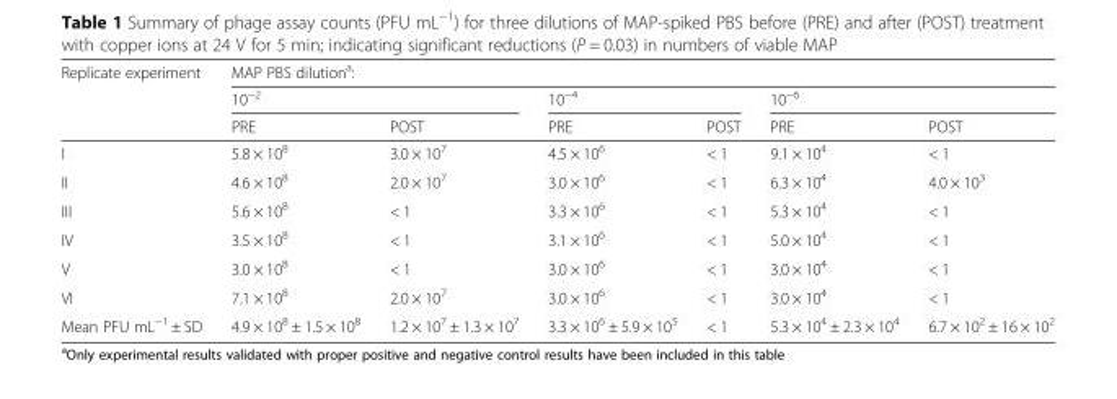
<table><thead><tr><td rowspan="3">Replicate experiment</td><td colspan="6">MAP PBS dilution<sup>a</sup>:</td></tr><tr><td colspan="2">10<sup>−2</sup></td><td colspan="2">10<sup>−4</sup></td><td colspan="2">10<sup>−6</sup></td></tr><tr><td>PRE</td><td>POST</td><td>PRE</td><td>POST</td><td>PRE</td><td>POST</td></tr></thead><tbody><tr><td>I</td><td>5.8 × 10<sup>8</sup></td><td>3.0 × 10<sup>7</sup></td><td>4.5 × 10<sup>6</sup></td><td>&lt; 1</td><td>9.1 × 10<sup>4</sup></td><td>&lt; 1</td></tr><tr><td>II</td><td>4.6 × 10<sup>8</sup></td><td>2.0 × 10<sup>7</sup></td><td>3.0 × 10<sup>6</sup></td><td>&lt; 1</td><td>6.3 × 10<sup>4</sup></td><td>4.0 × 10<sup>3</sup></td></tr><tr><td>III</td><td>5.6 × 10<sup>8</sup></td><td>&lt; 1</td><td>3.3 × 10<sup>6</sup></td><td>&lt; 1</td><td>5.3 × 10<sup>4</sup></td><td>&lt; 1</td></tr><tr><td>IV</td><td>3.5 × 10<sup>8</sup></td><td>&lt; 1</td><td>3.1 × 10<sup>6</sup></td><td>&lt; 1</td><td>5.0 × 10<sup>4</sup></td><td>&lt; 1</td></tr><tr><td>V</td><td>3.0 × 10<sup>8</sup></td><td>&lt; 1</td><td>3.0 × 10<sup>6</sup></td><td>&lt; 1</td><td>3.0 × 10<sup>4</sup></td><td>&lt; 1</td></tr><tr><td>VI</td><td>7.1 × 10<sup>8</sup></td><td>2.0 × 10<sup>7</sup></td><td>3.0 × 10<sup>6</sup></td><td>&lt; 1</td><td>3.0 × 10<sup>4</sup></td><td>&lt; 1</td></tr><tr><td>Mean PFU mL<sup>−1</sup> ± SD</td><td>4.9 × 10<sup>8</sup> ± 1.5 × 10<sup>8</sup></td><td>1.2 × 10<sup>7</sup> ± 1.3 × 10<sup>7</sup></td><td>3.3 × 10<sup>6</sup> ± 5.9 × 10<sup>5</sup></td><td>&lt; 1</td><td>5.3 × 10<sup>4</sup> ± 2.3 × 10<sup>4</sup></td><td>6.7 × 10<sup>2</sup> ± 16 × 10<sup>2</sup></td></tr></tbody></table>